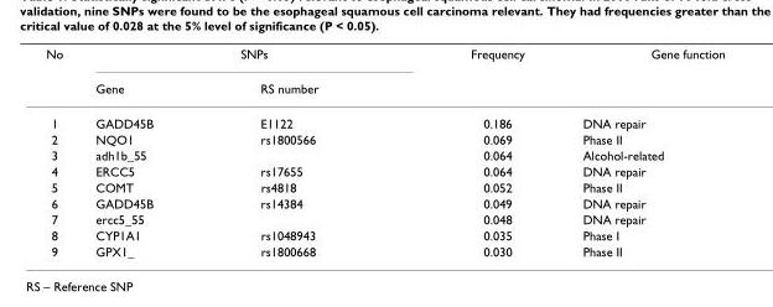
<table><thead><tr><td rowspan="2">No</td><td colspan="2">SNPs</td><td rowspan="2">Frequency</td><td rowspan="2">Gene function</td></tr><tr><td>Gene</td><td>RS number</td></tr></thead><tbody><tr><td>1</td><td>GADD45B</td><td>E1122</td><td>0.186</td><td>DNA repair</td></tr><tr><td>2</td><td>NQO1</td><td>rs1800566</td><td>0.069</td><td>Phase II</td></tr><tr><td>3</td><td>adh1b_55</td><td></td><td>0.064</td><td>Alcohol-related</td></tr><tr><td>4</td><td>ERCC5</td><td>rs17655</td><td>0.064</td><td>DNA repair</td></tr><tr><td>5</td><td>COMT</td><td>rs4818</td><td>0.052</td><td>Phase II</td></tr><tr><td>6</td><td>GADD45B</td><td>rs14384</td><td>0.049</td><td>DNA repair</td></tr><tr><td>7</td><td>ercc5_55</td><td></td><td>0.048</td><td>DNA repair</td></tr><tr><td>8</td><td>CYP1A1</td><td>rs1048943</td><td>0.035</td><td>Phase I</td></tr><tr><td>9</td><td>GPX1_</td><td>rs1800668</td><td>0.030</td><td>Phase II</td></tr></tbody></table>